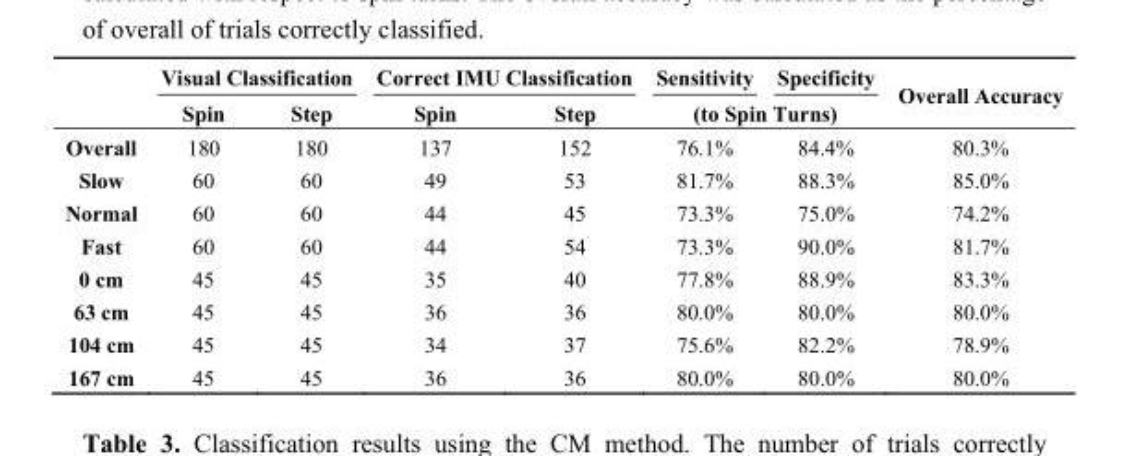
<table><thead><tr><td rowspan="2"></td><td colspan="2">Visual Classification</td><td colspan="2">Correct IMU Classification</td><td>Sensitivity</td><td>Specificity</td><td rowspan="2">Overall Accuracy</td></tr><tr><td>Spin</td><td>Step</td><td>Spin</td><td>Step</td><td colspan="2">(to Spin Turns)</td></tr></thead><tbody><tr><td>Overall</td><td>180</td><td>180</td><td>137</td><td>152</td><td>76.1%</td><td>84.4%</td><td>80.3%</td></tr><tr><td>Slow</td><td>60</td><td>60</td><td>49</td><td>53</td><td>81.7%</td><td>88.3%</td><td>85.0%</td></tr><tr><td>Normal</td><td>60</td><td>60</td><td>44</td><td>45</td><td>73.3%</td><td>75.0%</td><td>74.2%</td></tr><tr><td>Fast</td><td>60</td><td>60</td><td>44</td><td>54</td><td>73.3%</td><td>90.0%</td><td>81.7%</td></tr><tr><td>0 cm</td><td>45</td><td>45</td><td>35</td><td>40</td><td>77.8%</td><td>88.9%</td><td>83.3%</td></tr><tr><td>63 cm</td><td>45</td><td>45</td><td>36</td><td>36</td><td>80.0%</td><td>80.0%</td><td>80.0%</td></tr><tr><td>104 cm</td><td>45</td><td>45</td><td>34</td><td>37</td><td>75.6%</td><td>82.2%</td><td>78.9%</td></tr><tr><td>167 cm</td><td>45</td><td>45</td><td>36</td><td>36</td><td>80.0%</td><td>80.0%</td><td>80.0%</td></tr></tbody></table>